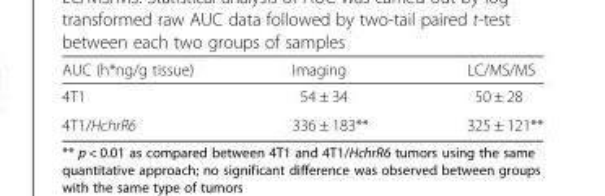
<table><thead><tr><td>AUC (h*ng/g tissue)</td><td>Imaging</td><td>LC/MS/MS</td></tr></thead><tbody><tr><td>4T1</td><td>54 ± 34</td><td>50 ± 28</td></tr><tr><td>4T1/HchrR6</td><td>336 ± 183**</td><td>325 ± 121**</td></tr></tbody></table>